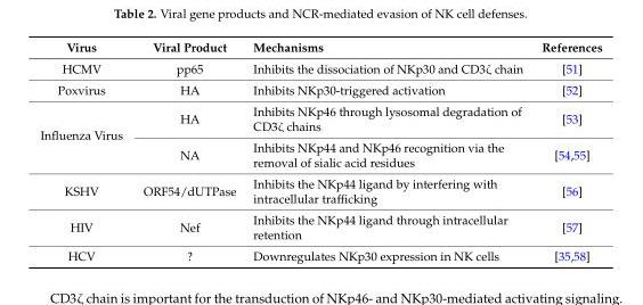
<table><thead><tr><td>Virus</td><td>Viral Product</td><td>Mechanisms</td><td>References</td></tr></thead><tbody><tr><td>HCMV</td><td>pp65</td><td>Inhibits the dissociation of NKp30 and CD3ζ chain</td><td>[51]</td></tr><tr><td>Poxvirus</td><td>HA</td><td>Inhibits NKp30-triggered activation</td><td>[52]</td></tr><tr><td rowspan="2">Influenza Virus</td><td>HA</td><td>Inhibits NKp46 through lysosomal degradation of CD3ζ chains</td><td>[53]</td></tr><tr><td>NA</td><td>Inhibits NKp44 and NKp46 recognition via the removal of sialic acid residues</td><td>[54,55]</td></tr><tr><td>KSHV</td><td>ORF54/dUTPase</td><td>Inhibits the NKp44 ligand by interfering with intracellular trafficking</td><td>[56]</td></tr><tr><td>HIV</td><td>Nef</td><td>Inhibits the NKp44 ligand through intracellular retention</td><td>[57]</td></tr><tr><td>HCV</td><td>?</td><td>Downregulates NKp30 expression in NK cells</td><td>[35,58]</td></tr></tbody></table>